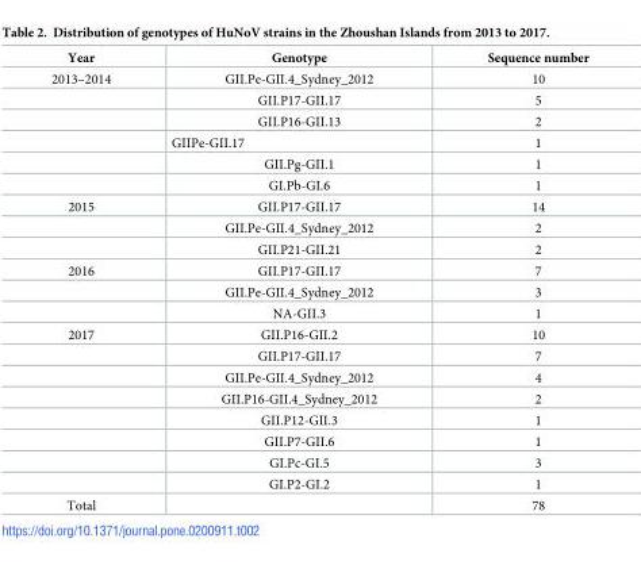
<table><thead><tr><td>Year</td><td>Genotype</td><td>Sequence number</td></tr></thead><tbody><tr><td rowspan="6">2013–2014</td><td>GII.Pe-GII.4_Sydney_2012</td><td>10</td></tr><tr><td>GII.P17-GII.17</td><td>5</td></tr><tr><td>GII.P16-GII.13</td><td>2</td></tr><tr><td>GIIPe-GII.17</td><td>1</td></tr><tr><td>GII.Pg-GII.1</td><td>1</td></tr><tr><td>GI.Pb-GI.6</td><td>1</td></tr><tr><td rowspan="3">2015</td><td>GII.P17-GII.17</td><td>14</td></tr><tr><td>GII.Pe-GII.4_Sydney_2012</td><td>2</td></tr><tr><td>GII.P21-GII.21</td><td>2</td></tr><tr><td rowspan="3">2016</td><td>GII.P17-GII.17</td><td>7</td></tr><tr><td>GII.Pe-GII.4_Sydney_2012</td><td>3</td></tr><tr><td>NA-GII.3</td><td>1</td></tr><tr><td rowspan="8">2017</td><td>GII.P16-GII.2</td><td>10</td></tr><tr><td>GII.P17-GII.17</td><td>7</td></tr><tr><td>GII.Pe-GII.4_Sydney_2012</td><td>4</td></tr><tr><td>GII.P16-GII.4_Sydney_2012</td><td>2</td></tr><tr><td>GII.P12-GII.3</td><td>1</td></tr><tr><td>GII.P7-GII.6</td><td>1</td></tr><tr><td>GI.Pc-GI.5</td><td>3</td></tr><tr><td>GI.P2-GI.2</td><td>1</td></tr><tr><td>Total</td><td></td><td>78</td></tr></tbody></table>